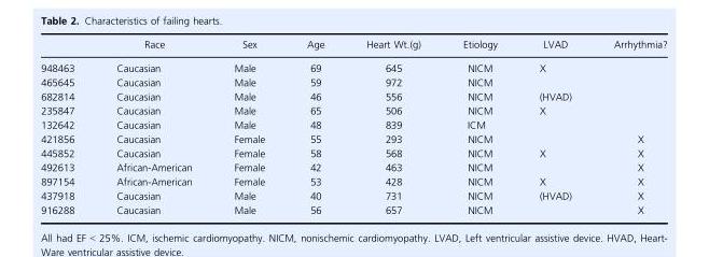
<table><thead><tr><td></td><td>Race</td><td>Sex</td><td>Age</td><td>Heart Wt.(g)</td><td>Etiology</td><td>LVAD</td><td>Arrhythmia?</td></tr></thead><tbody><tr><td>948463</td><td>Caucasian</td><td>Male</td><td>69</td><td>645</td><td>NICM</td><td>X</td><td></td></tr><tr><td>465645</td><td>Caucasian</td><td>Male</td><td>59</td><td>972</td><td>NICM</td><td></td><td></td></tr><tr><td>682814</td><td>Caucasian</td><td>Male</td><td>46</td><td>556</td><td>NICM</td><td>(HVAD)</td><td></td></tr><tr><td>235847</td><td>Caucasian</td><td>Male</td><td>65</td><td>506</td><td>NICM</td><td>X</td><td></td></tr><tr><td>132642</td><td>Caucasian</td><td>Male</td><td>48</td><td>839</td><td>ICM</td><td></td><td></td></tr><tr><td>421856</td><td>Caucasian</td><td>Female</td><td>55</td><td>293</td><td>NICM</td><td></td><td>X</td></tr><tr><td>445852</td><td>Caucasian</td><td>Female</td><td>58</td><td>568</td><td>NICM</td><td>X</td><td>X</td></tr><tr><td>492613</td><td>African-American</td><td>Female</td><td>42</td><td>463</td><td>NICM</td><td></td><td>X</td></tr><tr><td>897154</td><td>African-American</td><td>Female</td><td>53</td><td>428</td><td>NICM</td><td>X</td><td>X</td></tr><tr><td>437918</td><td>Caucasian</td><td>Male</td><td>40</td><td>731</td><td>NICM</td><td>(HVAD)</td><td>X</td></tr><tr><td>916288</td><td>Caucasian</td><td>Male</td><td>56</td><td>657</td><td>NICM</td><td></td><td>X</td></tr></tbody></table>